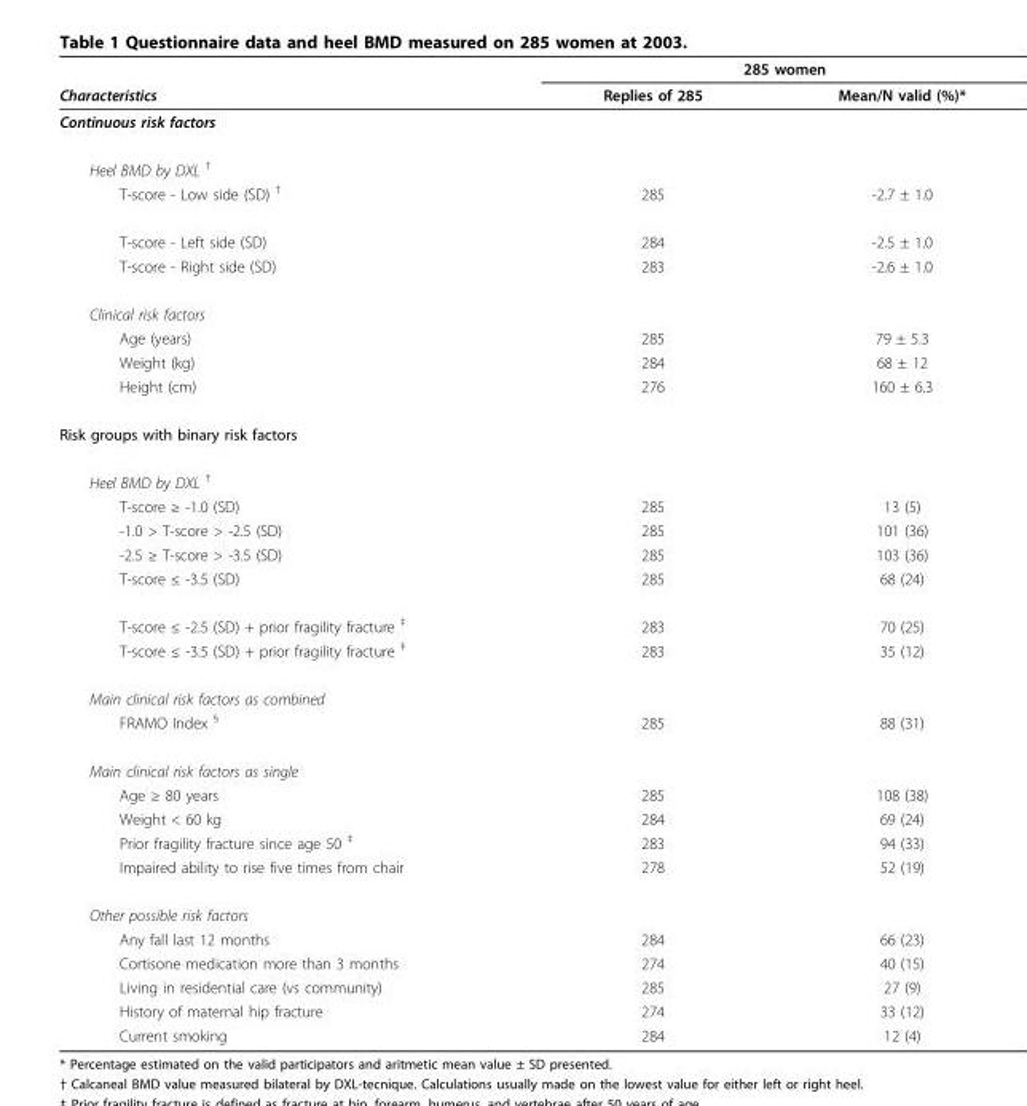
<table><thead><tr><td rowspan="2">Characteristics</td><td colspan="2">285 women</td></tr><tr><td>Replies of 285</td><td>Mean/N valid (%)*</td></tr></thead><tbody><tr><td colspan="3">Continuous risk factors</td></tr><tr><td colspan="3">Heel BMD by DXL <sup>†</sup></td></tr><tr><td>T-score - Low side (SD) <sup>†</sup></td><td>285</td><td>-2.7 ± 1.0</td></tr><tr><td>T-score - Left side (SD)</td><td>284</td><td>-2.5 ± 1.0</td></tr><tr><td>T-score - Right side (SD)</td><td>283</td><td>-2.6 ± 1.0</td></tr><tr><td colspan="3">Clinical risk factors</td></tr><tr><td>Age (years)</td><td>285</td><td>79 ± 5.3</td></tr><tr><td>Weight (kg)</td><td>284</td><td>68 ± 12</td></tr><tr><td>Height (cm)</td><td>276</td><td>160 ± 6.3</td></tr><tr><td colspan="3">Risk groups with binary risk factors</td></tr><tr><td colspan="3">Heel BMD by DXL <sup>†</sup></td></tr><tr><td>T-score ≥ -1.0 (SD)</td><td>285</td><td>13 (5)</td></tr><tr><td>-1.0 &gt; T-score &gt; -2.5 (SD)</td><td>285</td><td>101 (36)</td></tr><tr><td>-2.5 ≥ T-score &gt; -3.5 (SD)</td><td>285</td><td>103 (36)</td></tr><tr><td>T-score ≤ -3.5 (SD)</td><td>285</td><td>68 (24)</td></tr><tr><td>T-score ≤ -2.5 (SD) + prior fragility fracture <sup>‡</sup></td><td>283</td><td>70 (25)</td></tr><tr><td>T-score ≤ -3.5 (SD) + prior fragility fracture <sup>‡</sup></td><td>283</td><td>35 (12)</td></tr><tr><td colspan="3">Main clinical risk factors as combined</td></tr><tr><td>FRAMO Index <sup>§</sup></td><td>285</td><td>88 (31)</td></tr><tr><td colspan="3">Main clinical risk factors as single</td></tr><tr><td>Age ≥ 80 years</td><td>285</td><td>108 (38)</td></tr><tr><td>Weight &lt; 60 kg</td><td>284</td><td>69 (24)</td></tr><tr><td>Prior fragility fracture since age 50 <sup>‡</sup></td><td>283</td><td>94 (33)</td></tr><tr><td>Impaired ability to rise five times from chair</td><td>278</td><td>52 (19)</td></tr><tr><td colspan="3">Other possible risk factors</td></tr><tr><td>Any fall last 12 months</td><td>284</td><td>66 (23)</td></tr><tr><td>Cortisone medication more than 3 months</td><td>274</td><td>40 (15)</td></tr><tr><td>Living in residential care (vs community)</td><td>285</td><td>27 (9)</td></tr><tr><td>History of maternal hip fracture</td><td>274</td><td>33 (12)</td></tr><tr><td>Current smoking</td><td>284</td><td>12 (4)</td></tr></tbody></table>